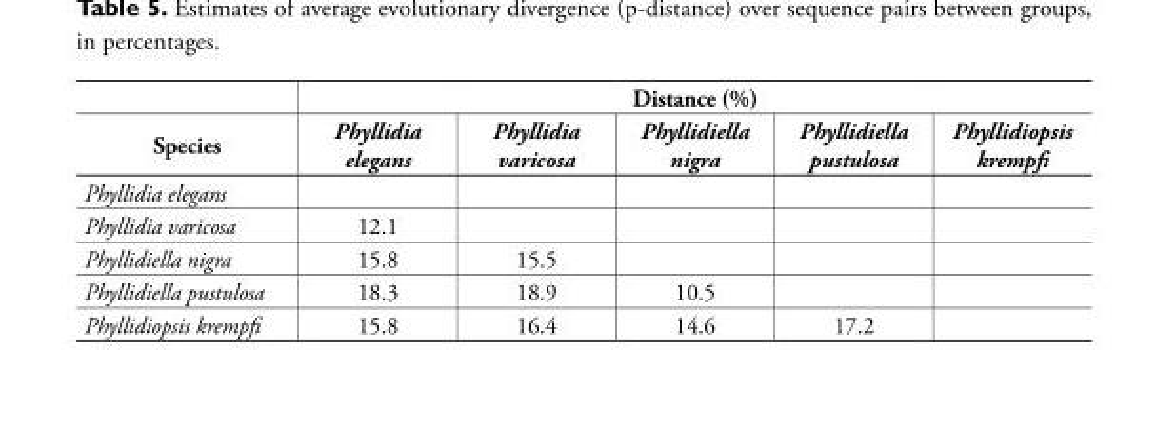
<table><thead><tr><td rowspan="2">Species</td><td colspan="5">Distance (%)</td></tr><tr><td>Phyllidia elegans</td><td>Phyllidia varicosa</td><td>Phyllidiella nigra</td><td>Phyllidiella pustulosa</td><td>Phyllidiopsis krempfi</td></tr></thead><tbody><tr><td colspan="6">Phyllidia elegans</td></tr><tr><td>Phyllidia varicosa</td><td>12.1</td><td></td><td></td><td></td><td></td></tr><tr><td>Phyllidiella nigra</td><td>15.8</td><td>15.5</td><td></td><td></td><td></td></tr><tr><td>Phyllidiella pustulosa</td><td>18.3</td><td>18.9</td><td>10.5</td><td></td><td></td></tr><tr><td>Phyllidiopsis krempfi</td><td>15.8</td><td>16.4</td><td>14.6</td><td>17.2</td><td></td></tr></tbody></table>